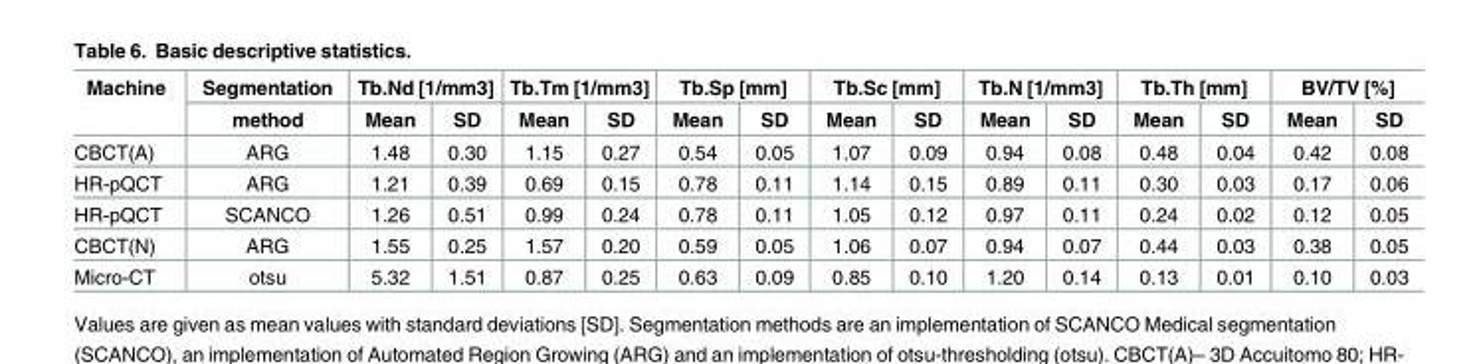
<table><thead><tr><td rowspan="2">Machine</td><td rowspan="2">Segmentation method</td><td colspan="2">Tb.Nd [1/mm3]</td><td colspan="2">Tb.Tm [1/mm3]</td><td colspan="2">Tb.Sp [mm]</td><td colspan="2">Tb.Sc [mm]</td><td colspan="2">Tb.N [1/mm3]</td><td colspan="2">Tb.Th [mm]</td><td colspan="2">BV/TV [%]</td></tr><tr><td>Mean</td><td>SD</td><td>Mean</td><td>SD</td><td>Mean</td><td>SD</td><td>Mean</td><td>SD</td><td>Mean</td><td>SD</td><td>Mean</td><td>SD</td><td>Mean</td><td>SD</td></tr></thead><tbody><tr><td>CBCT(A)</td><td>ARG</td><td>1.48</td><td>0.30</td><td>1.15</td><td>0.27</td><td>0.54</td><td>0.05</td><td>1.07</td><td>0.09</td><td>0.94</td><td>0.08</td><td>0.48</td><td>0.04</td><td>0.42</td><td>0.08</td></tr><tr><td>HR-pQCT</td><td>ARG</td><td>1.21</td><td>0.39</td><td>0.69</td><td>0.15</td><td>0.78</td><td>0.11</td><td>1.14</td><td>0.15</td><td>0.89</td><td>0.11</td><td>0.30</td><td>0.03</td><td>0.17</td><td>0.06</td></tr><tr><td>HR-pQCT</td><td>SCANCO</td><td>1.26</td><td>0.51</td><td>0.99</td><td>0.24</td><td>0.78</td><td>0.11</td><td>1.05</td><td>0.12</td><td>0.97</td><td>0.11</td><td>0.24</td><td>0.02</td><td>0.12</td><td>0.05</td></tr><tr><td>CBCT(N)</td><td>ARG</td><td>1.55</td><td>0.25</td><td>1.57</td><td>0.20</td><td>0.59</td><td>0.05</td><td>1.06</td><td>0.07</td><td>0.94</td><td>0.07</td><td>0.44</td><td>0.03</td><td>0.38</td><td>0.05</td></tr><tr><td>Micro-CT</td><td>otsu</td><td>5.32</td><td>1.51</td><td>0.87</td><td>0.25</td><td>0.63</td><td>0.09</td><td>0.85</td><td>0.10</td><td>1.20</td><td>0.14</td><td>0.13</td><td>0.01</td><td>0.10</td><td>0.03</td></tr></tbody></table>